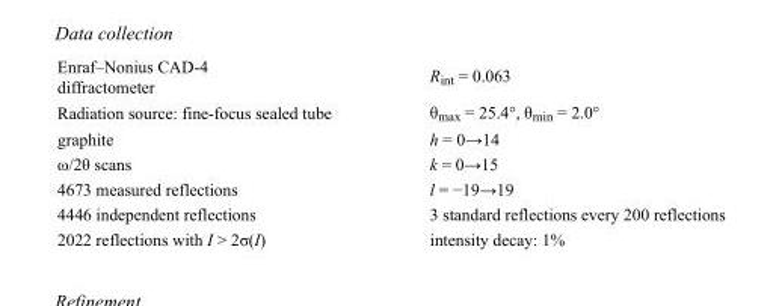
<table><tbody><tr><td>Enraf–Nonius CAD-4 diffractometer</td><td>R<sub>int</sub> = 0.063</td></tr><tr><td>Radiation source: fine-focus sealed tube</td><td>θ<sub>max</sub> = 25.4°, θ<sub>min</sub> = 2.0°</td></tr><tr><td>graphite</td><td>h = 0→14</td></tr><tr><td>ω/2θ scans</td><td>k = 0→15</td></tr><tr><td>4673 measured reflections</td><td>l = −19→19</td></tr><tr><td>4446 independent reflections</td><td>3 standard reflections every 200 reflections</td></tr><tr><td>2022 reflections with I &gt; 2σ(I)</td><td>intensity decay: 1%</td></tr></tbody></table>